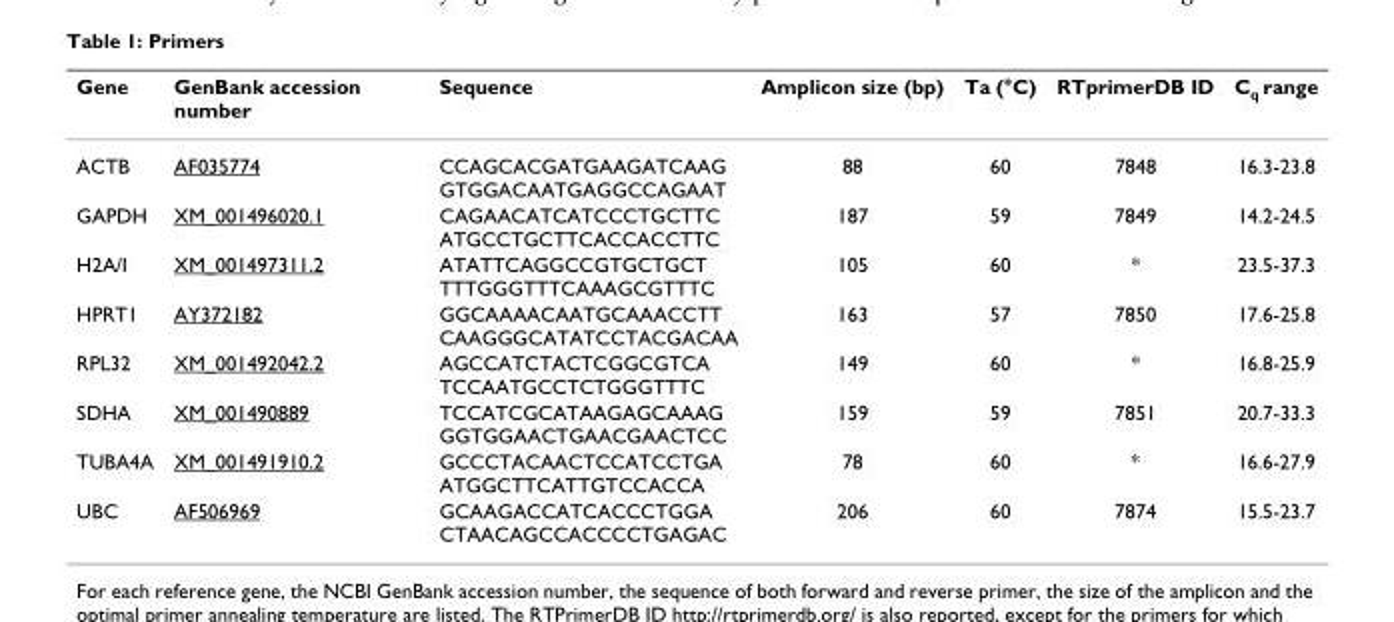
<table><thead><tr><td>Gene</td><td>GenBank accession number</td><td>Sequence</td><td>Amplicon size (bp)</td><td>Ta (°C)</td><td>RTprimerDB ID</td><td>C<sub>q</sub> range</td></tr></thead><tbody><tr><td>ACTB</td><td>AF035774</td><td>CCAGCACGATGAAGATCAAG GTGGACAATGAGGCCAGAAT</td><td>88</td><td>60</td><td>7848</td><td>16.3-23.8</td></tr><tr><td>GAPDH</td><td>XM_001496020.1</td><td>CAGAACATCATCCCTGCTTC ATGCCTGCTTCACCACCTTC</td><td>187</td><td>59</td><td>7849</td><td>14.2-24.5</td></tr><tr><td>H2A/I</td><td>XM_001497311.2</td><td>ATATTCAGGCCGTGCTGCT TTTGGGTTTCAAAGCGTTTC</td><td>105</td><td>60</td><td>*</td><td>23.5-37.3</td></tr><tr><td>HPRT1</td><td>AY372182</td><td>GGCAAAACAATGCAAACCTT CAAGGGCATATCCTACGACAA</td><td>163</td><td>57</td><td>7850</td><td>17.6-25.8</td></tr><tr><td>RPL32</td><td>XM_001492042.2</td><td>AGCCATCTACTCGGCGTCA TCCAATGCCTCTGGGTTTC</td><td>149</td><td>60</td><td>*</td><td>16.8-25.9</td></tr><tr><td>SDHA</td><td>XM_001490889</td><td>TCCATCGCATAAGAGCAAAG GGTGGAACTGAACGAACTCC</td><td>159</td><td>59</td><td>7851</td><td>20.7-33.3</td></tr><tr><td>TUBA4A</td><td>XM_001491910.2</td><td>GCCCTACAACTCCATCCTGA ATGGCTTCATTGTCCACCA</td><td>78</td><td>60</td><td>*</td><td>16.6-27.9</td></tr><tr><td>UBC</td><td>AF506969</td><td>GCAAGACCATCACCCTGGA CTAACAGCCACCCCTGAGAC</td><td>206</td><td>60</td><td>7874</td><td>15.5-23.7</td></tr></tbody></table>